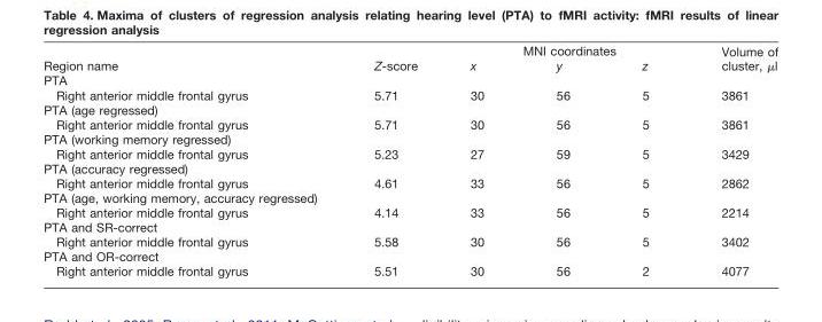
<table><thead><tr><td rowspan="2">Region name</td><td rowspan="2">Z-score</td><td colspan="3">MNI coordinates</td><td rowspan="2">Volume of cluster, µl</td></tr><tr><td>x</td><td>y</td><td>z</td></tr></thead><tbody><tr><td colspan="6">PTA</td></tr><tr><td>Right anterior middle frontal gyrus</td><td>5.71</td><td>30</td><td>56</td><td>5</td><td>3861</td></tr><tr><td colspan="6">PTA (age regressed)</td></tr><tr><td>Right anterior middle frontal gyrus</td><td>5.71</td><td>30</td><td>56</td><td>5</td><td>3861</td></tr><tr><td colspan="6">PTA (working memory regressed)</td></tr><tr><td>Right anterior middle frontal gyrus</td><td>5.23</td><td>27</td><td>59</td><td>5</td><td>3429</td></tr><tr><td colspan="6">PTA (accuracy regressed)</td></tr><tr><td>Right anterior middle frontal gyrus</td><td>4.61</td><td>33</td><td>56</td><td>5</td><td>2862</td></tr><tr><td colspan="6">PTA (age, working memory, accuracy regressed)</td></tr><tr><td>Right anterior middle frontal gyrus</td><td>4.14</td><td>33</td><td>56</td><td>5</td><td>2214</td></tr><tr><td colspan="6">PTA and SR-correct</td></tr><tr><td>Right anterior middle frontal gyrus</td><td>5.58</td><td>30</td><td>56</td><td>5</td><td>3402</td></tr><tr><td colspan="6">PTA and OR-correct</td></tr><tr><td>Right anterior middle frontal gyrus</td><td>5.51</td><td>30</td><td>56</td><td>2</td><td>4077</td></tr></tbody></table>